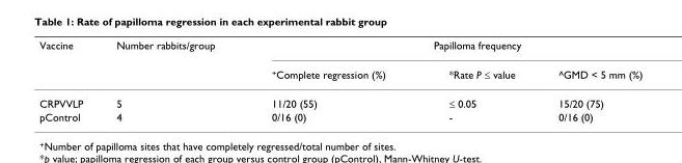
<table><thead><tr><td rowspan="2">Vaccine</td><td rowspan="2">Number rabbits/group</td><td colspan="3">Papilloma frequency</td></tr><tr><td><sup>+</sup>Complete regression (%)</td><td>*Rate P ≤ value</td><td>^GMD &lt; 5 mm (%)</td></tr></thead><tbody><tr><td>CRPVVLP</td><td>5</td><td>11/20 (55)</td><td>≤ 0.05</td><td>15/20 (75)</td></tr><tr><td>pControl</td><td>4</td><td>0/16 (0)</td><td>-</td><td>0/16 (0)</td></tr></tbody></table>